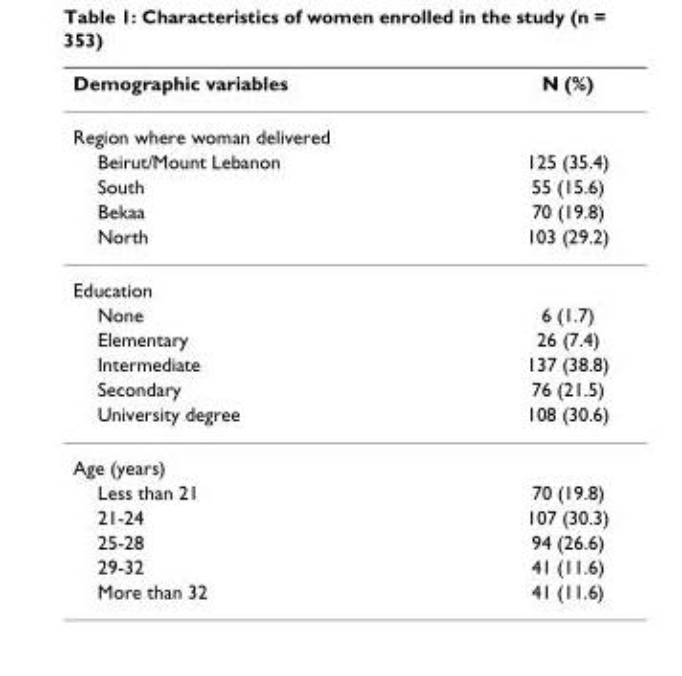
<table><thead><tr><td>Demographic variables</td><td>N (%)</td></tr></thead><tbody><tr><td colspan="2">Region where woman delivered</td></tr><tr><td>Beirut/Mount Lebanon</td><td>125 (35.4)</td></tr><tr><td>South</td><td>55 (15.6)</td></tr><tr><td>Bekaa</td><td>70 (19.8)</td></tr><tr><td>North</td><td>103 (29.2)</td></tr><tr><td colspan="2">Education</td></tr><tr><td>None</td><td>6 (1.7)</td></tr><tr><td>Elementary</td><td>26 (7.4)</td></tr><tr><td>Intermediate</td><td>137 (38.8)</td></tr><tr><td>Secondary</td><td>76 (21.5)</td></tr><tr><td>University degree</td><td>108 (30.6)</td></tr><tr><td colspan="2">Age (years)</td></tr><tr><td>Less than 21</td><td>70 (19.8)</td></tr><tr><td>21-24</td><td>107 (30.3)</td></tr><tr><td>25-28</td><td>94 (26.6)</td></tr><tr><td>29-32</td><td>41 (11.6)</td></tr><tr><td>More than 32</td><td>41 (11.6)</td></tr></tbody></table>